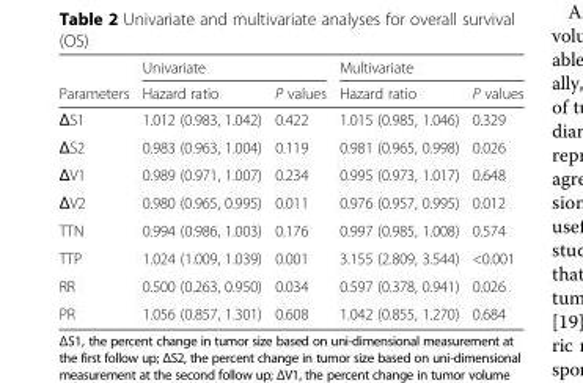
<table><thead><tr><td rowspan="2">Parameters</td><td colspan="2">Univariate</td><td colspan="2">Multivariate</td></tr><tr><td>Hazard ratio</td><td>P values</td><td>Hazard ratio</td><td>P values</td></tr></thead><tbody><tr><td>ΔS1</td><td>1.012 (0.983, 1.042)</td><td>0.422</td><td>1.015 (0.985, 1.046)</td><td>0.329</td></tr><tr><td>ΔS2</td><td>0.983 (0.963, 1.004)</td><td>0.119</td><td>0.981 (0.965, 0.998)</td><td>0.026</td></tr><tr><td>ΔV1</td><td>0.989 (0.971, 1.007)</td><td>0.234</td><td>0.995 (0.973, 1.017)</td><td>0.648</td></tr><tr><td>ΔV2</td><td>0.980 (0.965, 0.995)</td><td>0.011</td><td>0.976 (0.957, 0.995)</td><td>0.012</td></tr><tr><td>TTN</td><td>0.994 (0.986, 1.003)</td><td>0.176</td><td>0.997 (0.985, 1.008)</td><td>0.574</td></tr><tr><td>TTP</td><td>1.024 (1.009, 1.039)</td><td>0.001</td><td>3.155 (2.809, 3.544)</td><td>&lt;0.001</td></tr><tr><td>RR</td><td>0.500 (0.263, 0.950)</td><td>0.034</td><td>0.597 (0.378, 0.941)</td><td>0.026</td></tr><tr><td>PR</td><td>1.056 (0.857, 1.301)</td><td>0.608</td><td>1.042 (0.855, 1.270)</td><td>0.684</td></tr></tbody></table>